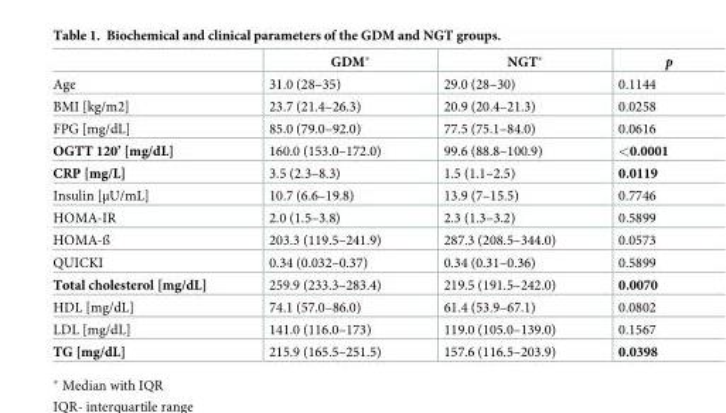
<table><thead><tr><td></td><td>GDM*</td><td>NGT*</td><td>p</td></tr></thead><tbody><tr><td>Age</td><td>31.0 (28–35)</td><td>29.0 (28–30)</td><td>0.1144</td></tr><tr><td>BMI [kg/m2]</td><td>23.7 (21.4–26.3)</td><td>20.9 (20.4–21.3)</td><td>0.0258</td></tr><tr><td>FPG [mg/dL]</td><td>85.0 (79.0–92.0)</td><td>77.5 (75.1–84.0)</td><td>0.0616</td></tr><tr><td>OGTT 120’ [mg/dL]</td><td>160.0 (153.0–172.0)</td><td>99.6 (88.8–100.9)</td><td>&lt;0.0001</td></tr><tr><td>CRP [mg/L]</td><td>3.5 (2.3–8.3)</td><td>1.5 (1.1–2.5)</td><td>0.0119</td></tr><tr><td>Insulin [μU/mL]</td><td>10.7 (6.6–19.8)</td><td>13.9 (7–15.5)</td><td>0.7746</td></tr><tr><td>HOMA-IR</td><td>2.0 (1.5–3.8)</td><td>2.3 (1.3–3.2)</td><td>0.5899</td></tr><tr><td>HOMA-ß</td><td>203.3 (119.5–241.9)</td><td>287.3 (208.5–344.0)</td><td>0.0573</td></tr><tr><td>QUICKI</td><td>0.34 (0.032–0.37)</td><td>0.34 (0.31–0.36)</td><td>0.5899</td></tr><tr><td>Total cholesterol [mg/dL]</td><td>259.9 (233.3–283.4)</td><td>219.5 (191.5–242.0)</td><td>0.0070</td></tr><tr><td>HDL [mg/dL]</td><td>74.1 (57.0–86.0)</td><td>61.4 (53.9–67.1)</td><td>0.0802</td></tr><tr><td>LDL [mg/dL]</td><td>141.0 (116.0–173)</td><td>119.0 (105.0–139.0)</td><td>0.1567</td></tr><tr><td>TG [mg/dL]</td><td>215.9 (165.5–251.5)</td><td>157.6 (116.5–203.9)</td><td>0.0398</td></tr></tbody></table>